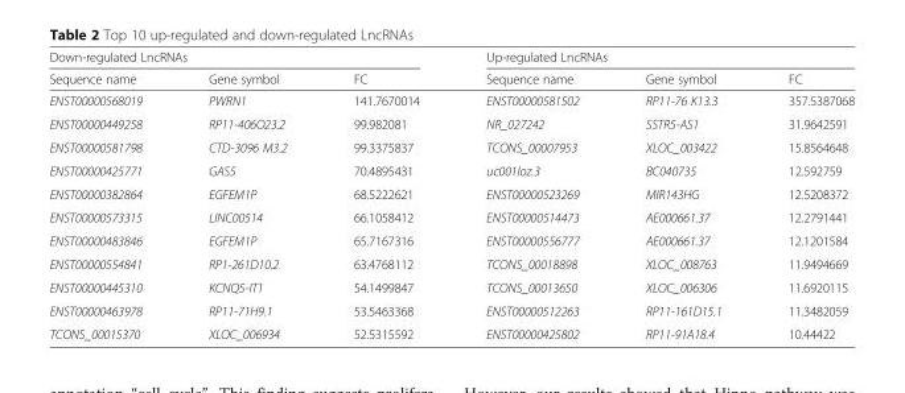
<table><thead><tr><td colspan="3">Down-regulated LncRNAs</td><td colspan="3">Up-regulated LncRNAs</td></tr><tr><td>Sequence name</td><td>Gene symbol</td><td>FC</td><td>Sequence name</td><td>Gene symbol</td><td>FC</td></tr></thead><tbody><tr><td>ENST00000568019</td><td>PWRN1</td><td>141.7670014</td><td>ENST00000581502</td><td>RP11-76 K13.3</td><td>357.5387068</td></tr><tr><td>ENST00000449258</td><td>RP11-406O23.2</td><td>99.982081</td><td>NR_027242</td><td>SSTR5-AS1</td><td>31.9642591</td></tr><tr><td>ENST00000581798</td><td>CTD-3096 M3.2</td><td>99.3375837</td><td>TCONS_00007953</td><td>XLOC_003422</td><td>15.8564648</td></tr><tr><td>ENST00000425771</td><td>GAS5</td><td>70.4895431</td><td>uc001loz.3</td><td>BC040735</td><td>12.592759</td></tr><tr><td>ENST00000382864</td><td>EGFEM1P</td><td>68.5222621</td><td>ENST00000523269</td><td>MIR143HG</td><td>12.5208372</td></tr><tr><td>ENST00000573315</td><td>LINC00514</td><td>66.1058412</td><td>ENST00000514473</td><td>AE000661.37</td><td>12.2791441</td></tr><tr><td>ENST00000483846</td><td>EGFEM1P</td><td>65.7167316</td><td>ENST00000556777</td><td>AE000661.37</td><td>12.1201584</td></tr><tr><td>ENST00000554841</td><td>RP1-261D10.2</td><td>63.4768112</td><td>TCONS_00018898</td><td>XLOC_008763</td><td>11.9494669</td></tr><tr><td>ENST00000445310</td><td>KCNQ5-IT1</td><td>54.1499847</td><td>TCONS_00013650</td><td>XLOC_006306</td><td>11.6920115</td></tr><tr><td>ENST00000463978</td><td>RP11-71H9.1</td><td>53.5463368</td><td>ENST00000512263</td><td>RP11-161D15.1</td><td>11.3482059</td></tr><tr><td>TCONS_00015370</td><td>XLOC_006934</td><td>52.5315592</td><td>ENST00000425802</td><td>RP11-91A18.4</td><td>10.44422</td></tr></tbody></table>